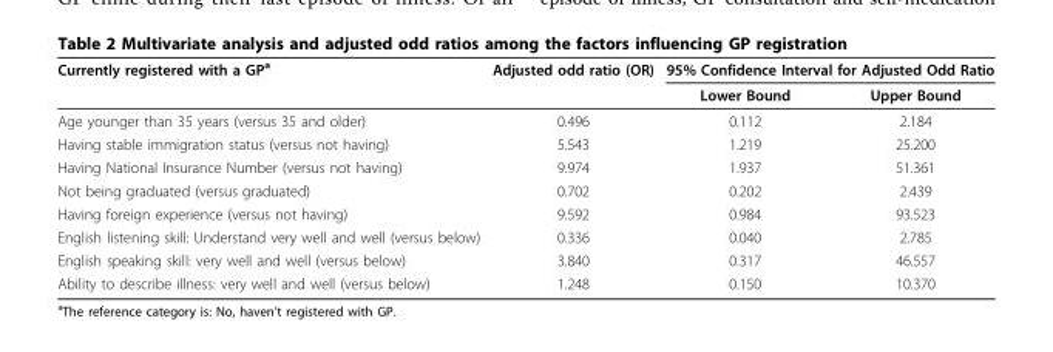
<table><thead><tr><td rowspan="2">Currently registered with a GP<sup>a</sup></td><td rowspan="2">Adjusted odd ratio (OR)</td><td colspan="2">95% Confidence Interval for Adjusted Odd Ratio</td></tr><tr><td>Lower Bound</td><td>Upper Bound</td></tr></thead><tbody><tr><td>Age younger than 35 years (versus 35 and older)</td><td>0.496</td><td>0.112</td><td>2.184</td></tr><tr><td>Having stable immigration status (versus not having)</td><td>5.543</td><td>1.219</td><td>25.200</td></tr><tr><td>Having National Insurance Number (versus not having)</td><td>9.974</td><td>1.937</td><td>51.361</td></tr><tr><td>Not being graduated (versus graduated)</td><td>0.702</td><td>0.202</td><td>2.439</td></tr><tr><td>Having foreign experience (versus not having)</td><td>9.592</td><td>0.984</td><td>93.523</td></tr><tr><td>English listening skill: Understand very well and well (versus below)</td><td>0.336</td><td>0.040</td><td>2.785</td></tr><tr><td>English speaking skill: very well and well (versus below)</td><td>3.840</td><td>0.317</td><td>46.557</td></tr><tr><td>Ability to describe illness: very well and well (versus below)</td><td>1.248</td><td>0.150</td><td>10.370</td></tr></tbody></table>